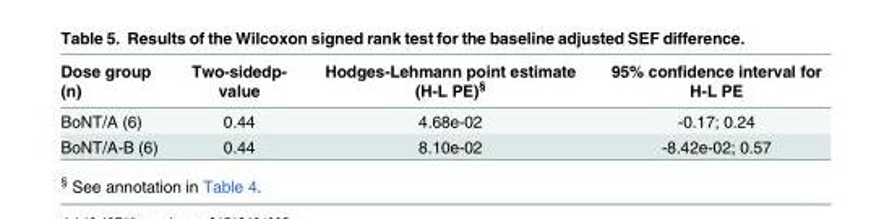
<table><thead><tr><td>Dose group (n)</td><td>Two-sidedp- value</td><td>Hodges-Lehmann point estimate (H-L PE)<sup>§</sup></td><td>95% confidence interval for H-L PE</td></tr></thead><tbody><tr><td>BoNT/A (6)</td><td>0.44</td><td>4.68e-02</td><td>-0.17; 0.24</td></tr><tr><td>BoNT/A-B (6)</td><td>0.44</td><td>8.10e-02</td><td>-8.42e-02; 0.57</td></tr></tbody></table>